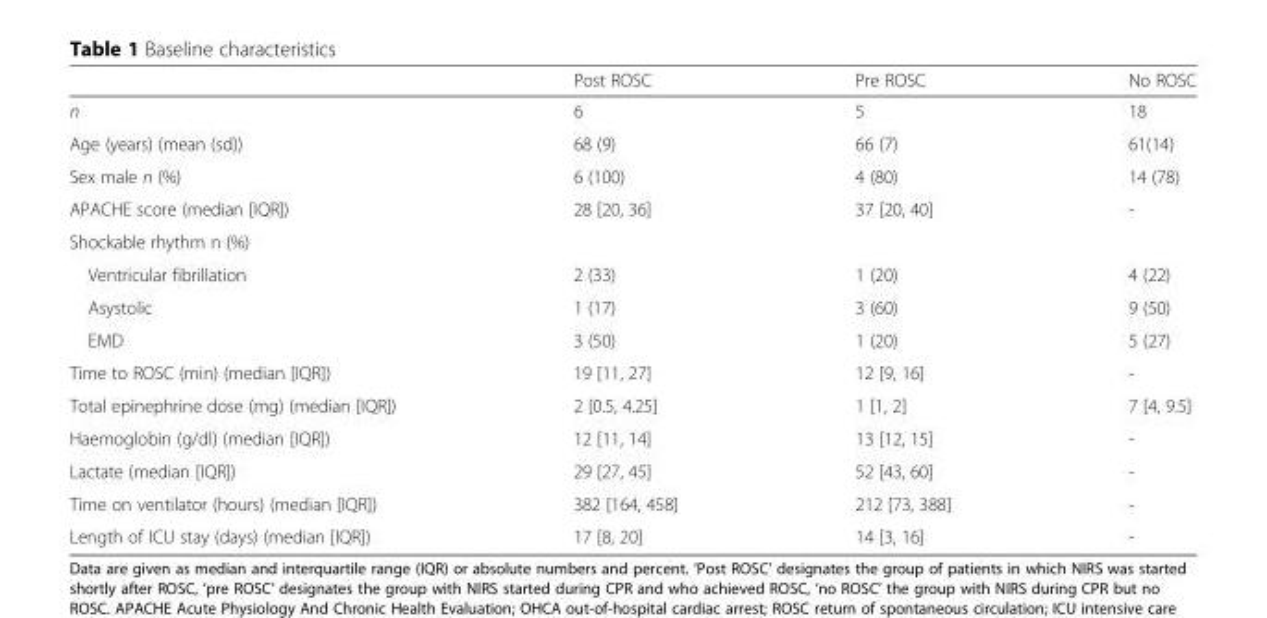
<table><thead><tr><td></td><td>Post ROSC</td><td>Pre ROSC</td><td>No ROSC</td></tr></thead><tbody><tr><td>n</td><td>6</td><td>5</td><td>18</td></tr><tr><td>Age (years) (mean (sd))</td><td>68 (9)</td><td>66 (7)</td><td>61(14)</td></tr><tr><td>Sex male n (%)</td><td>6 (100)</td><td>4 (80)</td><td>14 (78)</td></tr><tr><td>APACHE score (median [IQR])</td><td>28 [20, 36]</td><td>37 [20, 40]</td><td>-</td></tr><tr><td colspan="4">Shockable rhythm n (%)</td></tr><tr><td>Ventricular fibrillation</td><td>2 (33)</td><td>1 (20)</td><td>4 (22)</td></tr><tr><td>Asystolic</td><td>1 (17)</td><td>3 (60)</td><td>9 (50)</td></tr><tr><td>EMD</td><td>3 (50)</td><td>1 (20)</td><td>5 (27)</td></tr><tr><td>Time to ROSC (min) (median [IQR])</td><td>19 [11, 27]</td><td>12 [9, 16]</td><td>-</td></tr><tr><td>Total epinephrine dose (mg) (median [IQR])</td><td>2 [0.5, 4.25]</td><td>1 [1, 2]</td><td>7 [4, 9.5]</td></tr><tr><td>Haemoglobin (g/dl) (median [IQR])</td><td>12 [11, 14]</td><td>13 [12, 15]</td><td>-</td></tr><tr><td>Lactate (median [IQR])</td><td>29 [27, 45]</td><td>52 [43, 60]</td><td>-</td></tr><tr><td>Time on ventilator (hours) (median [IQR])</td><td>382 [164, 458]</td><td>212 [73, 388]</td><td>-</td></tr><tr><td>Length of ICU stay (days) (median [IQR])</td><td>17 [8, 20]</td><td>14 [3, 16]</td><td>-</td></tr></tbody></table>